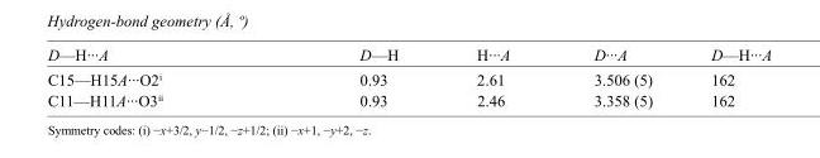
<table><tbody><tr><td>D—H···A</td><td>D—H</td><td>H···A</td><td>D···A</td><td>D—H···A</td></tr><tr><td>C15—H15A···O2<sup>i</sup></td><td>0.93</td><td>2.61</td><td>3.506 (5)</td><td>162</td></tr><tr><td>C11—H11A···O3<sup>ii</sup></td><td>0.93</td><td>2.46</td><td>3.358 (5)</td><td>162</td></tr></tbody></table>